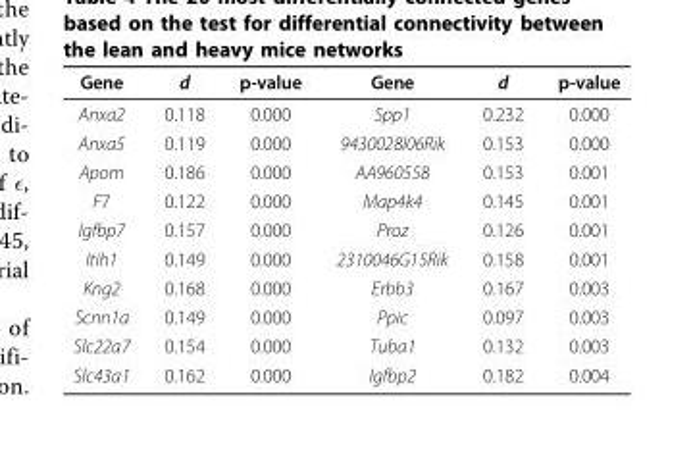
<table><thead><tr><td>Gene</td><td>d</td><td>p-value</td><td>Gene</td><td>d</td><td>p-value</td></tr></thead><tbody><tr><td>Anxa2</td><td>0.118</td><td>0.000</td><td>Spp1</td><td>0.232</td><td>0.000</td></tr><tr><td>Anxa5</td><td>0.119</td><td>0.000</td><td>9430028I06Rik</td><td>0.153</td><td>0.000</td></tr><tr><td>Apom</td><td>0.186</td><td>0.000</td><td>AA960558</td><td>0.153</td><td>0.001</td></tr><tr><td>F7</td><td>0.122</td><td>0.000</td><td>Map4k4</td><td>0.145</td><td>0.001</td></tr><tr><td>Igfbp7</td><td>0.157</td><td>0.000</td><td>Proz</td><td>0.126</td><td>0.001</td></tr><tr><td>Itih1</td><td>0.149</td><td>0.000</td><td>2310046G15Rik</td><td>0.158</td><td>0.001</td></tr><tr><td>Kng2</td><td>0.168</td><td>0.000</td><td>Erbb3</td><td>0.167</td><td>0.003</td></tr><tr><td>Scnn1a</td><td>0.149</td><td>0.000</td><td>Ppic</td><td>0.097</td><td>0.003</td></tr><tr><td>Slc22a7</td><td>0.154</td><td>0.000</td><td>Tuba1</td><td>0.132</td><td>0.003</td></tr><tr><td>Slc43a1</td><td>0.162</td><td>0.000</td><td>Igfbp2</td><td>0.182</td><td>0.004</td></tr></tbody></table>